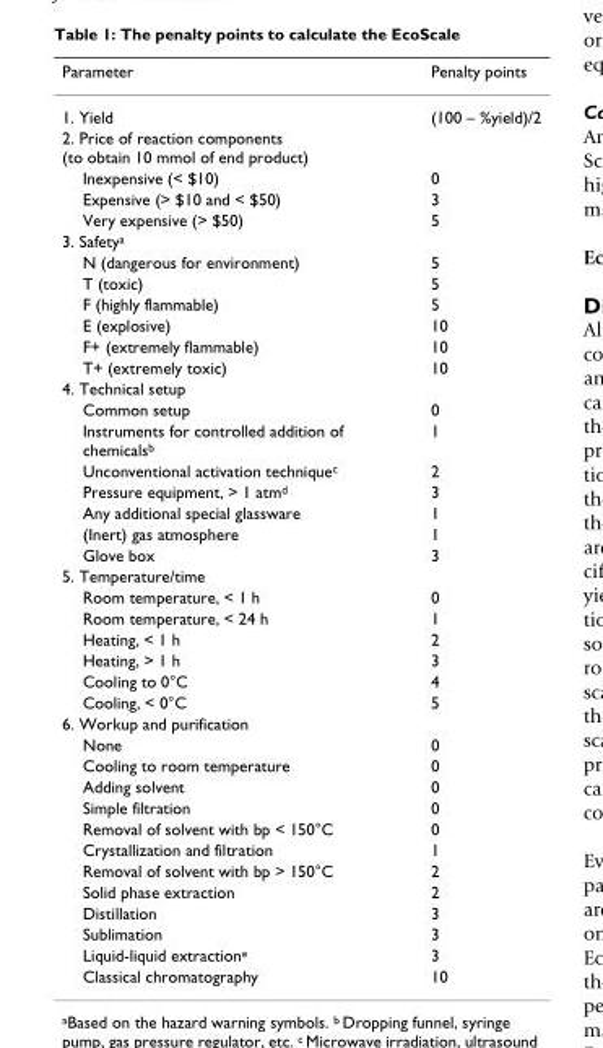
<table><thead><tr><td>Parameter</td><td>Penalty points</td></tr></thead><tbody><tr><td>1. Yield</td><td>(100 – %yield)/2</td></tr><tr><td colspan="2">2. Price of reaction components (to obtain 10 mmol of end product)</td></tr><tr><td>Inexpensive (&lt; $10)</td><td>0</td></tr><tr><td>Expensive (&gt; $10 and &lt; $50)</td><td>3</td></tr><tr><td>Very expensive (&gt; $50)</td><td>5</td></tr><tr><td colspan="2">3. Safety<sup>a</sup></td></tr><tr><td>N (dangerous for environment)</td><td>5</td></tr><tr><td>T (toxic)</td><td>5</td></tr><tr><td>F (highly flammable)</td><td>5</td></tr><tr><td>E (explosive)</td><td>10</td></tr><tr><td>F+ (extremely flammable)</td><td>10</td></tr><tr><td>T+ (extremely toxic)</td><td>10</td></tr><tr><td colspan="2">4. Technical setup</td></tr><tr><td>Common setup</td><td>0</td></tr><tr><td>Instruments for controlled addition of chemicals<sup>b</sup></td><td>1</td></tr><tr><td>Unconventional activation technique<sup>c</sup></td><td>2</td></tr><tr><td>Pressure equipment, &gt; 1 atm<sup>d</sup></td><td>3</td></tr><tr><td>Any additional special glassware</td><td>1</td></tr><tr><td>(Inert) gas atmosphere</td><td>1</td></tr><tr><td>Glove box</td><td>3</td></tr><tr><td colspan="2">5. Temperature/time</td></tr><tr><td>Room temperature, &lt; 1 h</td><td>0</td></tr><tr><td>Room temperature, &lt; 24 h</td><td>1</td></tr><tr><td>Heating, &lt; 1 h</td><td>2</td></tr><tr><td>Heating, &gt; 1 h</td><td>3</td></tr><tr><td>Cooling to 0°C</td><td>4</td></tr><tr><td>Cooling, &lt; 0°C</td><td>5</td></tr><tr><td colspan="2">6. Workup and purification</td></tr><tr><td>None</td><td>0</td></tr><tr><td>Cooling to room temperature</td><td>0</td></tr><tr><td>Adding solvent</td><td>0</td></tr><tr><td>Simple filtration</td><td>0</td></tr><tr><td>Removal of solvent with bp &lt; 150°C</td><td>0</td></tr><tr><td>Crystallization and filtration</td><td>1</td></tr><tr><td>Removal of solvent with bp &gt; 150°C</td><td>2</td></tr><tr><td>Solid phase extraction</td><td>2</td></tr><tr><td>Distillation</td><td>3</td></tr><tr><td>Sublimation</td><td>3</td></tr><tr><td>Liquid-liquid extraction<sup>e</sup></td><td>3</td></tr><tr><td>Classical chromatography</td><td>10</td></tr></tbody></table>